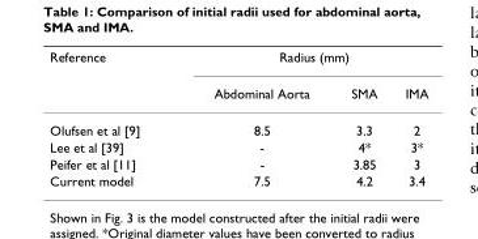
<table><thead><tr><td rowspan="2">Reference</td><td colspan="3">Radius (mm)</td></tr><tr><td>Abdominal Aorta</td><td>SMA</td><td>IMA</td></tr></thead><tbody><tr><td>Olufsen et al [9]</td><td>8.5</td><td>3.3</td><td>2</td></tr><tr><td>Lee et al [39]</td><td>-</td><td>4*</td><td>3*</td></tr><tr><td>Peifer et al [11]</td><td>-</td><td>3.85</td><td>3</td></tr><tr><td>Current model</td><td>7.5</td><td>4.2</td><td>3.4</td></tr></tbody></table>